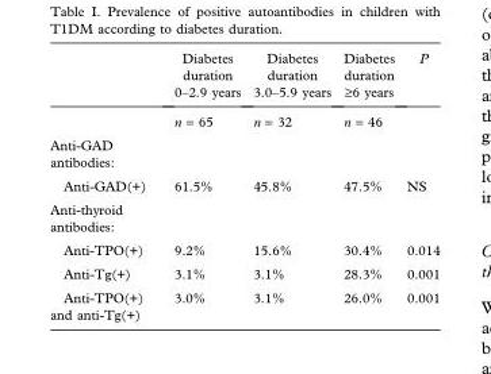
<table><thead><tr><td></td><td>Diabetes duration 0–2.9 years</td><td>Diabetes duration 3.0–5.9 years</td><td>Diabetes duration ‡6 years</td><td>P</td></tr></thead><tbody><tr><td></td><td>n = 65</td><td>n = 32</td><td>n = 46</td><td></td></tr><tr><td colspan="5">Anti-GAD antibodies:</td></tr><tr><td>Anti-GAD(+)</td><td>61.5%</td><td>45.8%</td><td>47.5%</td><td>NS</td></tr><tr><td colspan="5">Anti-thyroid antibodies:</td></tr><tr><td>Anti-TPO(+)</td><td>9.2%</td><td>15.6%</td><td>30.4%</td><td>0.014</td></tr><tr><td>Anti-Tg(+)</td><td>3.1%</td><td>3.1%</td><td>28.3%</td><td>0.001</td></tr><tr><td>Anti-TPO(+) and anti-Tg(+)</td><td>3.0%</td><td>3.1%</td><td>26.0%</td><td>0.001</td></tr></tbody></table>